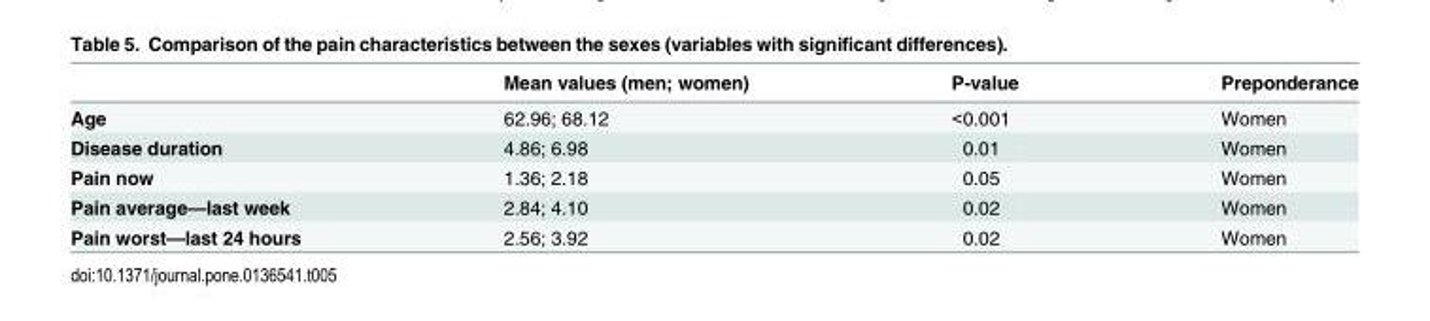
<table><thead><tr><td></td><td>Mean values (men; women)</td><td>P-value</td><td>Preponderance</td></tr></thead><tbody><tr><td>Age</td><td>62.96; 68.12</td><td>&lt;0.001</td><td>Women</td></tr><tr><td>Disease duration</td><td>4.86; 6.98</td><td>0.01</td><td>Women</td></tr><tr><td>Pain now</td><td>1.36; 2.18</td><td>0.05</td><td>Women</td></tr><tr><td>Pain average—last week</td><td>2.84; 4.10</td><td>0.02</td><td>Women</td></tr><tr><td>Pain worst—last 24 hours</td><td>2.56; 3.92</td><td>0.02</td><td>Women</td></tr></tbody></table>